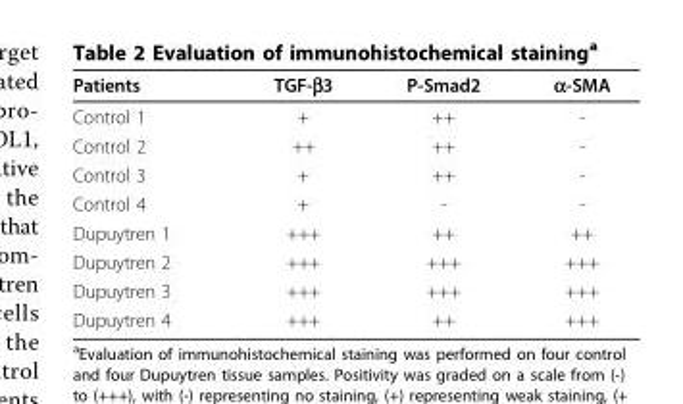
<table><thead><tr><td>Patients</td><td>TGF-β3</td><td>P-Smad2</td><td>α-SMA</td></tr></thead><tbody><tr><td>Control 1</td><td>+</td><td>++</td><td>-</td></tr><tr><td>Control 2</td><td>++</td><td>++</td><td>-</td></tr><tr><td>Control 3</td><td>+</td><td>++</td><td>-</td></tr><tr><td>Control 4</td><td>+</td><td>-</td><td>-</td></tr><tr><td>Dupuytren 1</td><td>+++</td><td>++</td><td>++</td></tr><tr><td>Dupuytren 2</td><td>+++</td><td>+++</td><td>+++</td></tr><tr><td>Dupuytren 3</td><td>+++</td><td>+++</td><td>+++</td></tr><tr><td>Dupuytren 4</td><td>+++</td><td>++</td><td>+++</td></tr></tbody></table>